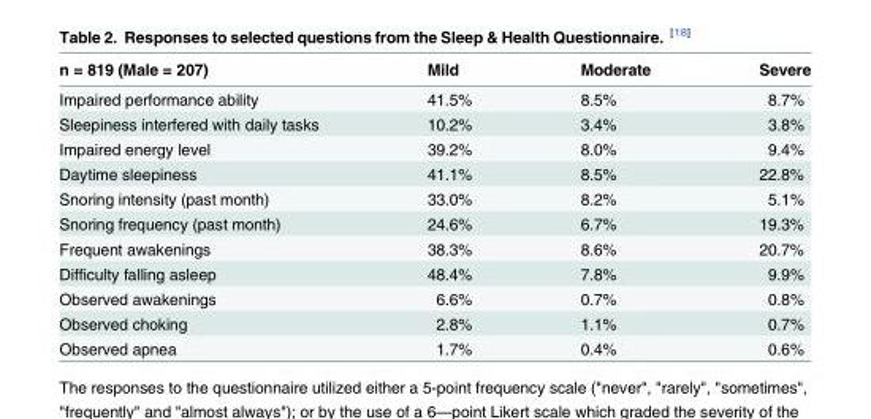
<table><thead><tr><td>n = 819 (Male = 207)</td><td>Mild</td><td>Moderate</td><td>Severe</td></tr></thead><tbody><tr><td>Impaired performance ability</td><td>41.5%</td><td>8.5%</td><td>8.7%</td></tr><tr><td>Sleepiness interfered with daily tasks</td><td>10.2%</td><td>3.4%</td><td>3.8%</td></tr><tr><td>Impaired energy level</td><td>39.2%</td><td>8.0%</td><td>9.4%</td></tr><tr><td>Daytime sleepiness</td><td>41.1%</td><td>8.5%</td><td>22.8%</td></tr><tr><td>Snoring intensity (past month)</td><td>33.0%</td><td>8.2%</td><td>5.1%</td></tr><tr><td>Snoring frequency (past month)</td><td>24.6%</td><td>6.7%</td><td>19.3%</td></tr><tr><td>Frequent awakenings</td><td>38.3%</td><td>8.6%</td><td>20.7%</td></tr><tr><td>Difficulty falling asleep</td><td>48.4%</td><td>7.8%</td><td>9.9%</td></tr><tr><td>Observed awakenings</td><td>6.6%</td><td>0.7%</td><td>0.8%</td></tr><tr><td>Observed choking</td><td>2.8%</td><td>1.1%</td><td>0.7%</td></tr><tr><td>Observed apnea</td><td>1.7%</td><td>0.4%</td><td>0.6%</td></tr></tbody></table>